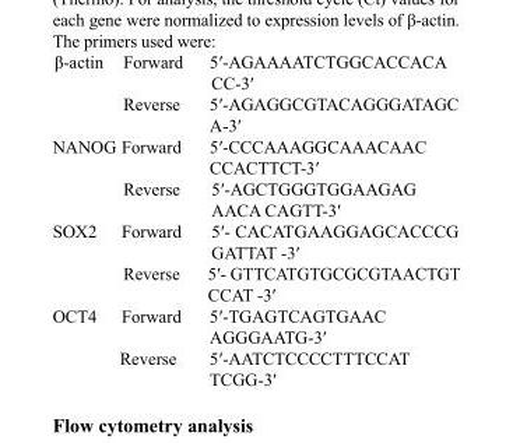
<table><tbody><tr><td rowspan="2">β-actin</td><td>Forward</td><td>5′-AGAAAATCTGGCACCACA CC-3′</td></tr><tr><td>Reverse</td><td>5′-AGAGGCGTACAGGGATAGC A-3′</td></tr><tr><td rowspan="2">NANOG</td><td>Forward</td><td>5′-CCCAAAGGCAAACAAC CCACTTCT-3′</td></tr><tr><td>Reverse</td><td>5′-AGCTGGGTGGAAGAG AACA CAGTT-3′</td></tr><tr><td rowspan="2">SOX2</td><td>Forward</td><td>5′- CACATGAAGGAGCACCCG GATTAT -3′</td></tr><tr><td>Reverse</td><td>5′- GTTCATGTGCGCGTAACTGT CCAT -3′</td></tr><tr><td rowspan="2">OCT4</td><td>Forward</td><td>5′-TGAGTCAGTGAAC AGGGAATG-3′</td></tr><tr><td>Reverse</td><td>5′-AATCTCCCCTTTCCAT TCGG-3′</td></tr></tbody></table>